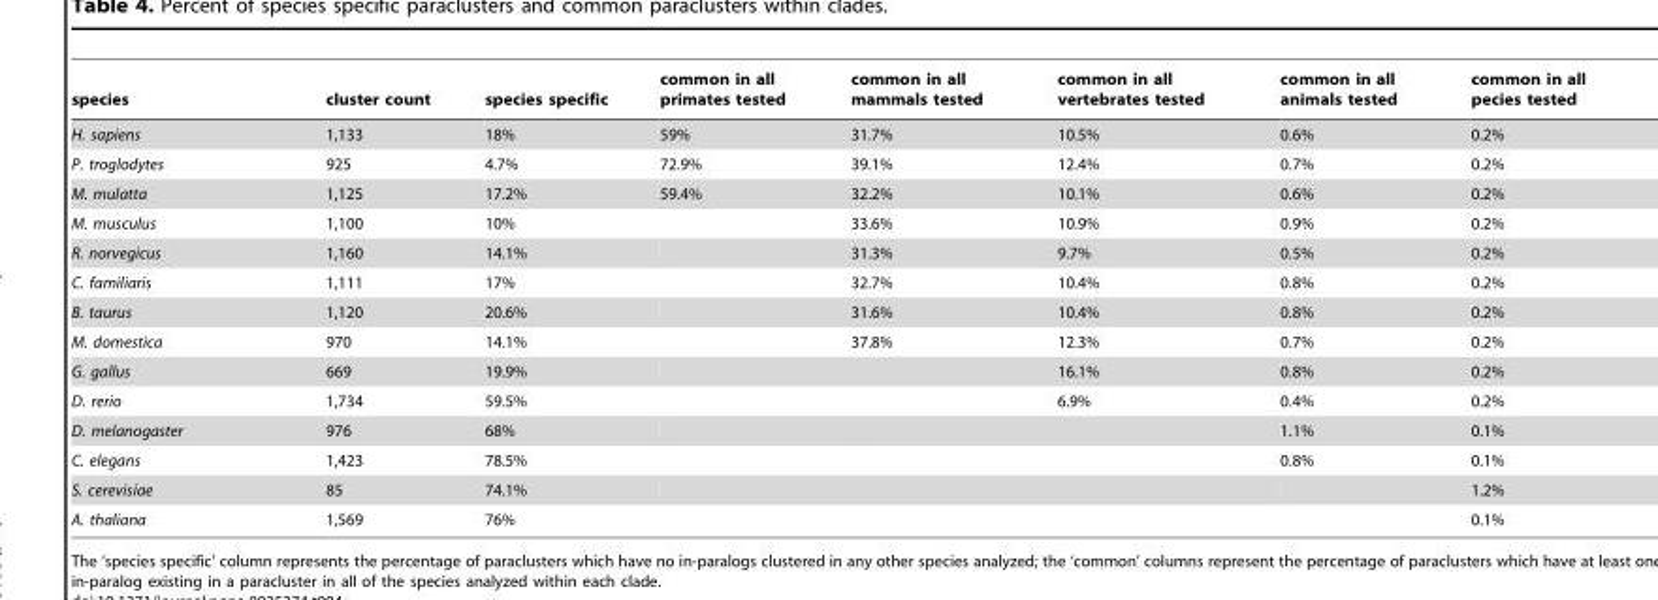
<table><thead><tr><td>species</td><td>cluster count</td><td>species specific</td><td>common in all primates tested</td><td>common in all mammals tested</td><td>common in all vertebrates tested</td><td>common in all animals tested</td><td>common in all pecies tested</td></tr></thead><tbody><tr><td>H. sapiens</td><td>1,133</td><td>18%</td><td>59%</td><td>31.7%</td><td>10.5%</td><td>0.6%</td><td>0.2%</td></tr><tr><td>P. troglodytes</td><td>925</td><td>4.7%</td><td>72.9%</td><td>39.1%</td><td>12.4%</td><td>0.7%</td><td>0.2%</td></tr><tr><td>M. mulatta</td><td>1,125</td><td>17.2%</td><td>59.4%</td><td>32.2%</td><td>10.1%</td><td>0.6%</td><td>0.2%</td></tr><tr><td>M. musculus</td><td>1,100</td><td>10%</td><td></td><td>33.6%</td><td>10.9%</td><td>0.9%</td><td>0.2%</td></tr><tr><td>R. norvegicus</td><td>1,160</td><td>14.1%</td><td></td><td>31.3%</td><td>9.7%</td><td>0.5%</td><td>0.2%</td></tr><tr><td>C. familiaris</td><td>1,111</td><td>17%</td><td></td><td>32.7%</td><td>10.4%</td><td>0.8%</td><td>0.2%</td></tr><tr><td>B. taurus</td><td>1,120</td><td>20.6%</td><td></td><td>31.6%</td><td>10.4%</td><td>0.8%</td><td>0.2%</td></tr><tr><td>M. domestica</td><td>970</td><td>14.1%</td><td></td><td>37.8%</td><td>12.3%</td><td>0.7%</td><td>0.2%</td></tr><tr><td>G. gallus</td><td>669</td><td>19.9%</td><td></td><td></td><td>16.1%</td><td>0.8%</td><td>0.2%</td></tr><tr><td>D. rerio</td><td>1,734</td><td>59.5%</td><td></td><td></td><td>6.9%</td><td>0.4%</td><td>0.2%</td></tr><tr><td>D. melanogaster</td><td>976</td><td>68%</td><td></td><td></td><td></td><td>1.1%</td><td>0.1%</td></tr><tr><td>C. elegans</td><td>1,423</td><td>78.5%</td><td></td><td></td><td></td><td>0.8%</td><td>0.1%</td></tr><tr><td>S. cerevisiae</td><td>85</td><td>74.1%</td><td></td><td></td><td></td><td></td><td>1.2%</td></tr><tr><td>A. thaliana</td><td>1,569</td><td>76%</td><td></td><td></td><td></td><td></td><td>0.1%</td></tr></tbody></table>